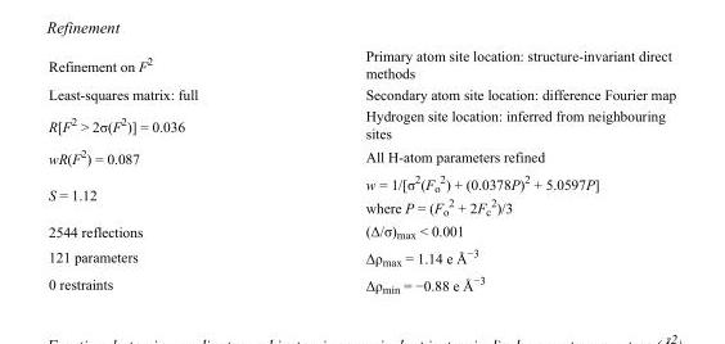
<table><tbody><tr><td>Refinement on F<sup>2</sup></td><td>Primary atom site location: structure-invariant direct methods</td></tr><tr><td>Least-squares matrix: full</td><td>Secondary atom site location: difference Fourier map</td></tr><tr><td>R[F<sup>2</sup> &gt; 2σ(F<sup>2</sup>)] = 0.036</td><td>Hydrogen site location: inferred from neighbouring sites</td></tr><tr><td>wR(F<sup>2</sup>) = 0.087</td><td>All H-atom parameters refined</td></tr><tr><td>S = 1.12</td><td>w = 1/[σ<sup>2</sup>(F<sub>o</sub> <sup>2</sup>) + (0.0378P)<sup>2</sup> + 5.0597P] where P = (F<sub>o</sub> <sup>2</sup> + 2F<sub>c</sub> <sup>2</sup>)/3</td></tr><tr><td>2544 reflections</td><td>(Δ/σ)<sub>max</sub> &lt; 0.001</td></tr><tr><td>121 parameters</td><td>Δρ<sub>max</sub> = 1.14 e Å<sup>−3</sup></td></tr><tr><td>0 restraints</td><td>Δρ<sub>min</sub> = −0.88 e Å<sup>−3</sup></td></tr></tbody></table>